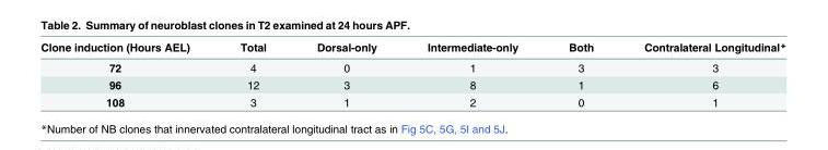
<table><thead><tr><td>Clone induction (Hours AEL)</td><td>Total</td><td>Dorsal-only</td><td>Intermediate-only</td><td>Both</td><td>Contralateral Longitudinal*</td></tr></thead><tbody><tr><td>72</td><td>4</td><td>0</td><td>1</td><td>3</td><td>3</td></tr><tr><td>96</td><td>12</td><td>3</td><td>8</td><td>1</td><td>6</td></tr><tr><td>108</td><td>3</td><td>1</td><td>2</td><td>0</td><td>1</td></tr></tbody></table>